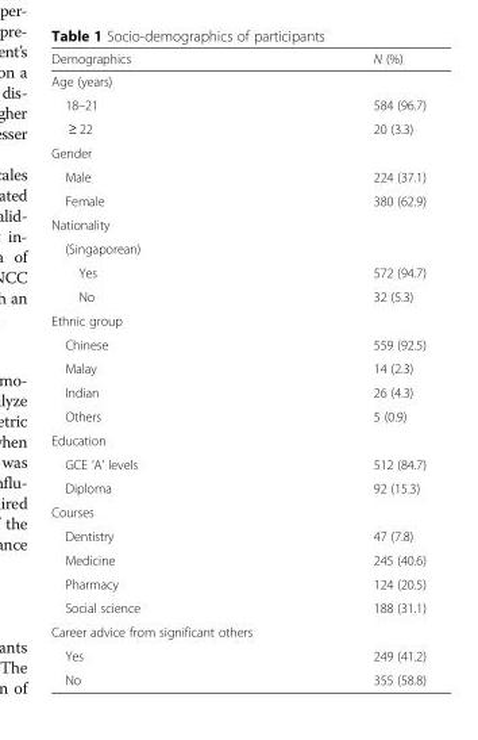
<table><thead><tr><td>Demographics</td><td>N (%)</td></tr></thead><tbody><tr><td colspan="2">Age (years)</td></tr><tr><td>18–21</td><td>584 (96.7)</td></tr><tr><td>≥ 22</td><td>20 (3.3)</td></tr><tr><td colspan="2">Gender</td></tr><tr><td>Male</td><td>224 (37.1)</td></tr><tr><td>Female</td><td>380 (62.9)</td></tr><tr><td colspan="2">Nationality</td></tr><tr><td colspan="2">(Singaporean)</td></tr><tr><td>Yes</td><td>572 (94.7)</td></tr><tr><td>No</td><td>32 (5.3)</td></tr><tr><td colspan="2">Ethnic group</td></tr><tr><td>Chinese</td><td>559 (92.5)</td></tr><tr><td>Malay</td><td>14 (2.3)</td></tr><tr><td>Indian</td><td>26 (4.3)</td></tr><tr><td>Others</td><td>5 (0.9)</td></tr><tr><td colspan="2">Education</td></tr><tr><td>GCE ‘A’ levels</td><td>512 (84.7)</td></tr><tr><td>Diploma</td><td>92 (15.3)</td></tr><tr><td colspan="2">Courses</td></tr><tr><td>Dentistry</td><td>47 (7.8)</td></tr><tr><td>Medicine</td><td>245 (40.6)</td></tr><tr><td>Pharmacy</td><td>124 (20.5)</td></tr><tr><td>Social science</td><td>188 (31.1)</td></tr><tr><td colspan="2">Career advice from significant others</td></tr><tr><td>Yes</td><td>249 (41.2)</td></tr><tr><td>No</td><td>355 (58.8)</td></tr></tbody></table>